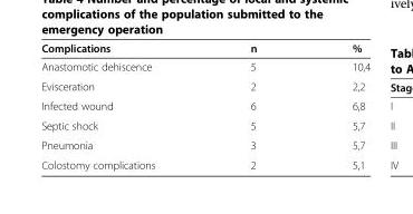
<table><thead><tr><td>Complications</td><td>n</td><td>%</td></tr></thead><tbody><tr><td>Anastomotic dehiscence</td><td>5</td><td>10,4</td></tr><tr><td>Evisceration</td><td>2</td><td>2,2</td></tr><tr><td>Infected wound</td><td>6</td><td>6,8</td></tr><tr><td>Septic shock</td><td>5</td><td>5,7</td></tr><tr><td>Pneumonia</td><td>3</td><td>5,7</td></tr><tr><td>Colostomy complications</td><td>2</td><td>5,1</td></tr></tbody></table>